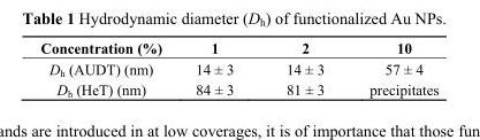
<table><thead><tr><td>Concentration (%)</td><td>1</td><td>2</td><td>10</td></tr></thead><tbody><tr><td>D<sub>h</sub> (AUDT) (nm)</td><td>14 ± 3</td><td>14 ± 3</td><td>57 ± 4</td></tr><tr><td>D<sub>h</sub> (HeT) (nm)</td><td>84 ± 3</td><td>81 ± 3</td><td>precipitates</td></tr></tbody></table>